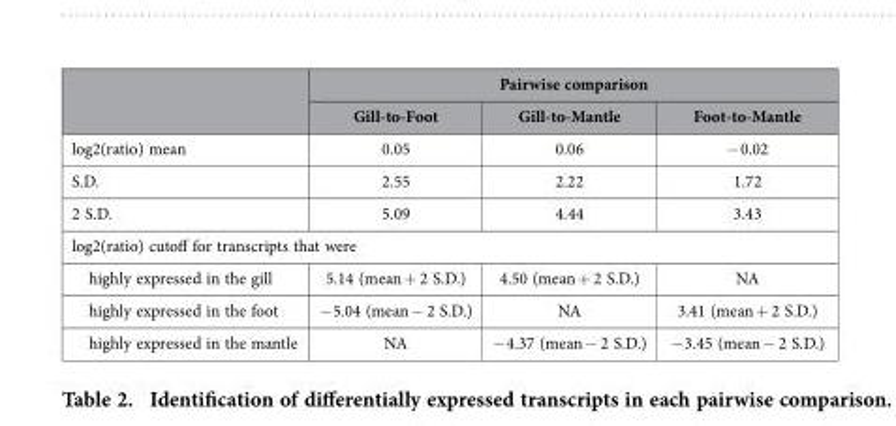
<table><thead><tr><td rowspan="2"></td><td colspan="3">Pairwise comparison</td></tr><tr><td>Gill-to-Foot</td><td>Gill-to-Mantle</td><td>Foot-to-Mantle</td></tr></thead><tbody><tr><td>log2(ratio) mean</td><td>0.05</td><td>0.06</td><td>− 0.02</td></tr><tr><td>S.D.</td><td>2.55</td><td>2.22</td><td>1.72</td></tr><tr><td>2 S.D.</td><td>5.09</td><td>4.44</td><td>3.43</td></tr><tr><td colspan="4">log2(ratio) cutoff for transcripts that were</td></tr><tr><td>highly expressed in the gill</td><td>5.14 (mean + 2 S.D.)</td><td>4.50 (mean + 2 S.D.)</td><td>NA</td></tr><tr><td>highly expressed in the foot</td><td>− 5.04 (mean − 2 S.D.)</td><td>NA</td><td>3.41 (mean + 2 S.D.)</td></tr><tr><td>highly expressed in the mantle</td><td>NA</td><td>− 4.37 (mean − 2 S.D.)</td><td>− 3.45 (mean − 2 S.D.)</td></tr></tbody></table>